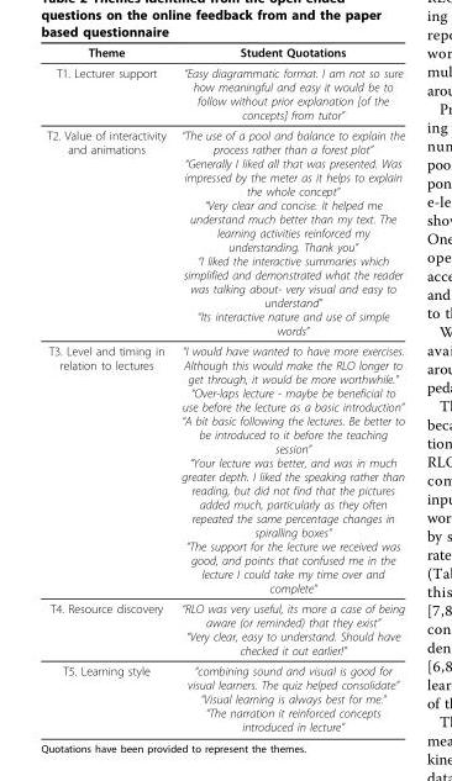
<table><thead><tr><td>Theme</td><td>Student Quotations</td></tr></thead><tbody><tr><td>T1. Lecturer support</td><td>“Easy diagrammatic format. I am not so sure how meaningful and easy it would be to follow without prior explanation [of the concepts] from tutor”</td></tr><tr><td>T2. Value of interactivity and animations</td><td>“The use of a pool and balance to explain the process rather than a forest plot” “Generally I liked all that was presented. Was impressed by the meter as it helps to explain the whole concept” “Very clear and concise. It helped me understand much better than my text. The learning activities reinforced my understanding. Thank you” “I liked the interactive summaries which simplified and demonstrated what the reader was talking about- very visual and easy to understand” “Its interactive nature and use of simple words”</td></tr><tr><td>T3. Level and timing in relation to lectures</td><td>“I would have wanted to have more exercises. Although this would make the RLO longer to get through, it would be more worthwhile.” “Over-laps lecture - maybe be beneficial to use before the lecture as a basic introduction” “A bit basic following the lectures. Be better to be introduced to it before the teaching session” “Your lecture was better, and was in much greater depth. I liked the speaking rather than reading, but did not find that the pictures added much, particularly as they often repeated the same percentage changes in spiralling boxes” “The support for the lecture we received was good, and points that confused me in the lecture I could take my time over and complete”</td></tr><tr><td>T4. Resource discovery</td><td>“RLO was very useful, its more a case of being aware (or reminded) that they exist” “Very clear, easy to understand. Should have checked it out earlier!”</td></tr><tr><td>T5. Learning style</td><td>“combining sound and visual is good for visual learners. The quiz helped consolidate” “Visual learning is always best for me.” “The narration it reinforced concepts introduced in lecture”</td></tr></tbody></table>